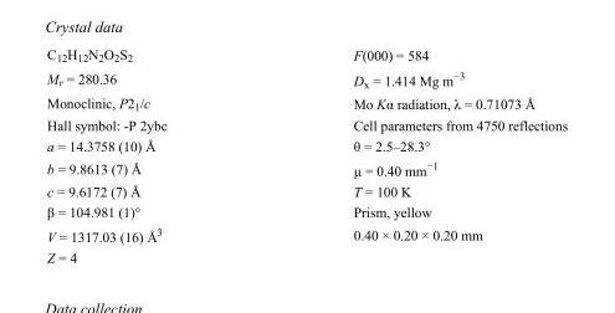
<table><tbody><tr><td>C<sub>12</sub>H<sub>12</sub>N<sub>2</sub>O<sub>2</sub>S<sub>2</sub></td><td>F(000) = 584</td></tr><tr><td>M<sub>r</sub> = 280.36</td><td>D<sub>x</sub> = 1.414 Mg m<sup>−3</sup></td></tr><tr><td>Monoclinic, P2<sub>1</sub>/c</td><td>Mo Kα radiation, λ = 0.71073 Å</td></tr><tr><td>Hall symbol: -P 2ybc</td><td>Cell parameters from 4750 reflections</td></tr><tr><td>a = 14.3758 (10) Å</td><td>θ = 2.5–28.3°</td></tr><tr><td>b = 9.8613 (7) Å</td><td>µ = 0.40 mm<sup>−1</sup></td></tr><tr><td>c = 9.6172 (7) Å</td><td>T = 100 K</td></tr><tr><td>β = 104.981 (1)°</td><td>Prism, yellow</td></tr><tr><td>V = 1317.03 (16) Å<sup>3</sup></td><td>0.40 × 0.20 × 0.20 mm</td></tr><tr><td>Z = 4</td><td></td></tr></tbody></table>